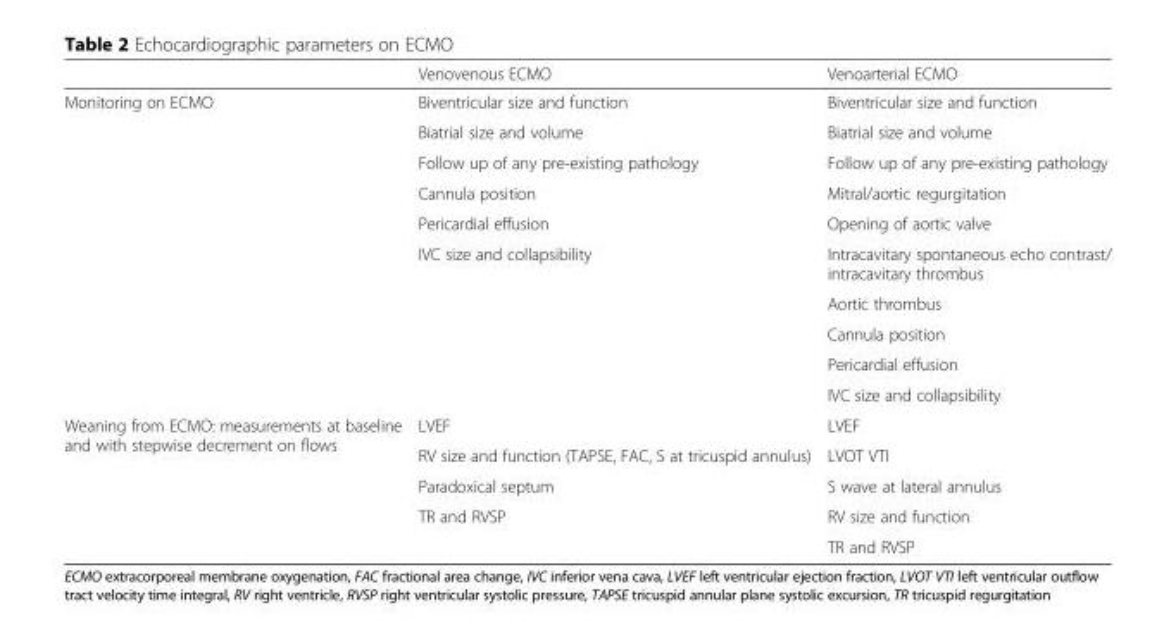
<table><thead><tr><td></td><td>Venovenous ECMO</td><td>Venoarterial ECMO</td></tr></thead><tbody><tr><td rowspan="10">Monitoring on ECMO</td><td>Biventricular size and function</td><td>Biventricular size and function</td></tr><tr><td>Biatrial size and volume</td><td>Biatrial size and volume</td></tr><tr><td>Follow up of any pre-existing pathology</td><td>Follow up of any pre-existing pathology</td></tr><tr><td>Cannula position</td><td>Mitral/aortic regurgitation</td></tr><tr><td>Pericardial effusion</td><td>Opening of aortic valve</td></tr><tr><td rowspan="5">IVC size and collapsibility</td><td>Intracavitary spontaneous echo contrast/ intracavitary thrombus</td></tr><tr><td>Aortic thrombus</td></tr><tr><td>Cannula position</td></tr><tr><td>Pericardial effusion</td></tr><tr><td>IVC size and collapsibility</td></tr><tr><td rowspan="5">Weaning from ECMO: measurements at baseline and with stepwise decrement on flows</td><td>LVEF</td><td>LVEF</td></tr><tr><td>RV size and function (TAPSE, FAC, S at tricuspid annulus)</td><td>LVOT VTI</td></tr><tr><td>Paradoxical septum</td><td>S wave at lateral annulus</td></tr><tr><td rowspan="2">TR and RVSP</td><td>RV size and function</td></tr><tr><td>TR and RVSP</td></tr></tbody></table>